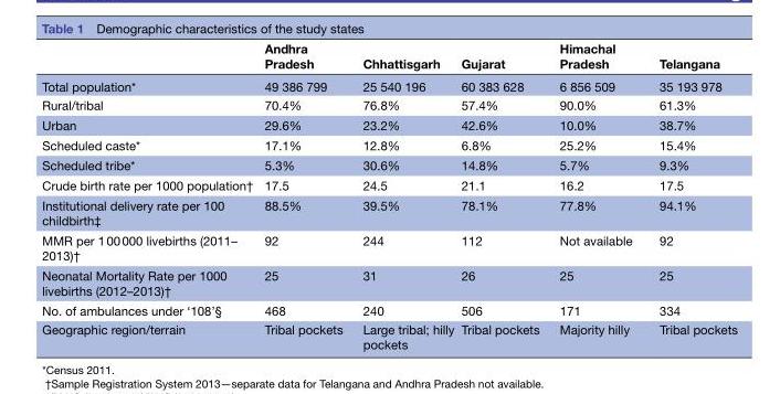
<table><thead><tr><td></td><td>Andhra Pradesh</td><td>Chhattisgarh</td><td>Gujarat</td><td>Himachal Pradesh</td><td>Telangana</td></tr></thead><tbody><tr><td>Total population*</td><td>49 386 799</td><td>25 540 196</td><td>60 383 628</td><td>6 856 509</td><td>35 193 978</td></tr><tr><td>Rural/tribal</td><td>70.4%</td><td>76.8%</td><td>57.4%</td><td>90.0%</td><td>61.3%</td></tr><tr><td>Urban</td><td>29.6%</td><td>23.2%</td><td>42.6%</td><td>10.0%</td><td>38.7%</td></tr><tr><td>Scheduled caste*</td><td>17.1%</td><td>12.8%</td><td>6.8%</td><td>25.2%</td><td>15.4%</td></tr><tr><td>Scheduled tribe*</td><td>5.3%</td><td>30.6%</td><td>14.8%</td><td>5.7%</td><td>9.3%</td></tr><tr><td>Crude birth rate per 1000 population†</td><td>17.5</td><td>24.5</td><td>21.1</td><td>16.2</td><td>17.5</td></tr><tr><td>Institutional delivery rate per 100 childbirth‡</td><td>88.5%</td><td>39.5%</td><td>78.1%</td><td>77.8%</td><td>94.1%</td></tr><tr><td>MMR per 1 00 000 livebirths (2011– 2013)†</td><td>92</td><td>244</td><td>112</td><td>Not available</td><td>92</td></tr><tr><td>Neonatal Mortality Rate per 1000 livebirths (2012–2013)†</td><td>25</td><td>31</td><td>26</td><td>25</td><td>25</td></tr><tr><td>No. of ambulances under ‘108’§</td><td>468</td><td>240</td><td>506</td><td>171</td><td>334</td></tr><tr><td>Geographic region/terrain</td><td>Tribal pockets</td><td>Large tribal; hilly pockets</td><td>Tribal pockets</td><td>Majority hilly</td><td>Tribal pockets</td></tr></tbody></table>